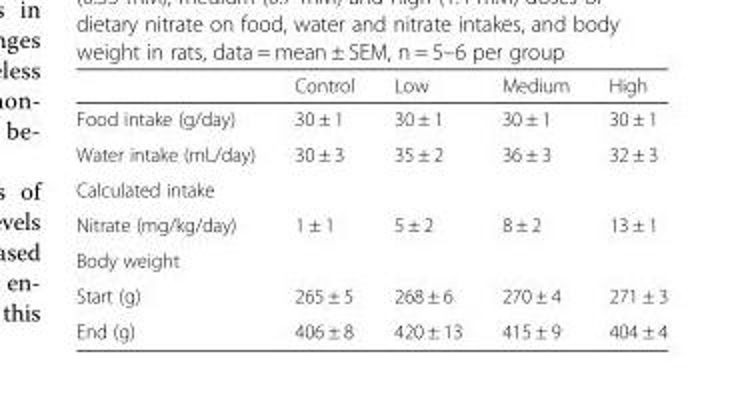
<table><thead><tr><td></td><td>Control</td><td>Low</td><td>Medium</td><td>High</td></tr></thead><tbody><tr><td>Food intake (g/day)</td><td>30 ± 1</td><td>30 ± 1</td><td>30 ± 1</td><td>30 ± 1</td></tr><tr><td>Water intake (mL/day)</td><td>30 ± 3</td><td>35 ± 2</td><td>36 ± 3</td><td>32 ± 3</td></tr><tr><td colspan="5">Calculated intake</td></tr><tr><td>Nitrate (mg/kg/day)</td><td>1 ± 1</td><td>5 ± 2</td><td>8 ± 2</td><td>13 ± 1</td></tr><tr><td colspan="5">Body weight</td></tr><tr><td>Start (g)</td><td>265 ± 5</td><td>268 ± 6</td><td>270 ± 4</td><td>271 ± 3</td></tr><tr><td>End (g)</td><td>406 ± 8</td><td>420 ± 13</td><td>415 ± 9</td><td>404 ± 4</td></tr></tbody></table>